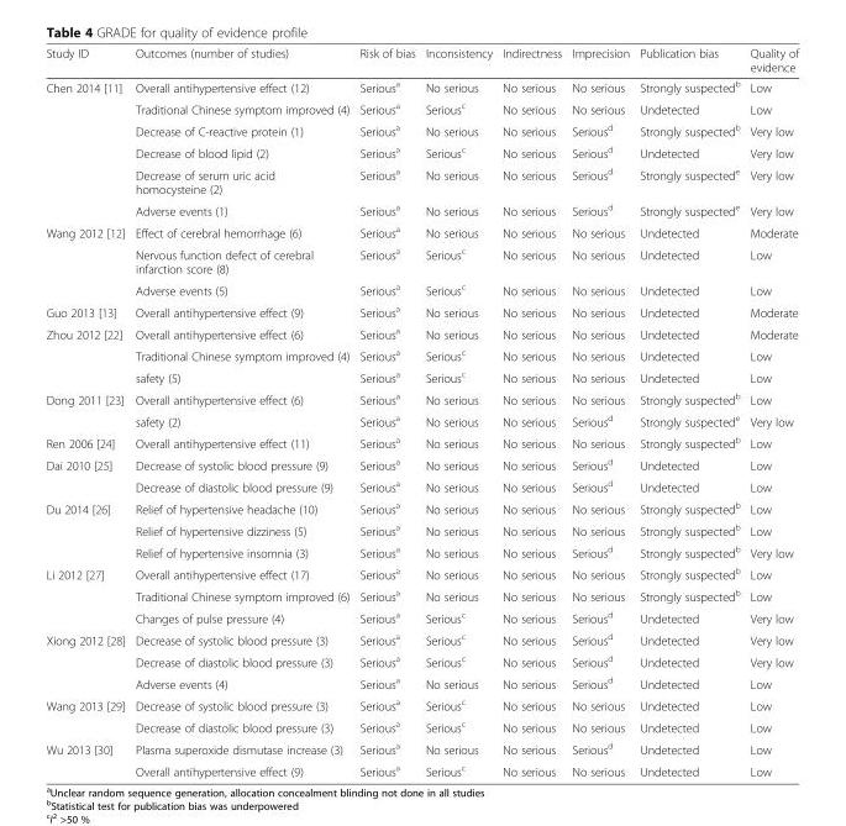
<table><thead><tr><td>Study ID</td><td>Outcomes (number of studies)</td><td>Risk of bias</td><td>Inconsistency</td><td>Indirectness</td><td>Imprecision</td><td>Publication bias</td><td>Quality of evidence</td></tr></thead><tbody><tr><td rowspan="6">Chen 2014 [11]</td><td>Overall antihypertensive effect (12)</td><td>Serious<sup>a</sup></td><td>No serious</td><td>No serious</td><td>No serious</td><td>Strongly suspected<sup>b</sup></td><td>Low</td></tr><tr><td>Traditional Chinese symptom improved (4)</td><td>Serious<sup>a</sup></td><td>Serious<sup>c</sup></td><td>No serious</td><td>No serious</td><td>Undetected</td><td>Low</td></tr><tr><td>Decrease of C-reactive protein (1)</td><td>Serious<sup>a</sup></td><td>No serious</td><td>No serious</td><td>Serious<sup>d</sup></td><td>Strongly suspected<sup>b</sup></td><td>Very low</td></tr><tr><td>Decrease of blood lipid (2)</td><td>Serious<sup>a</sup></td><td>Serious<sup>c</sup></td><td>No serious</td><td>Serious<sup>d</sup></td><td>Undetected</td><td>Very low</td></tr><tr><td>Decrease of serum uric acid homocysteine (2)</td><td>Serious<sup>a</sup></td><td>No serious</td><td>No serious</td><td>Serious<sup>d</sup></td><td>Strongly suspected<sup>e</sup></td><td>Very low</td></tr><tr><td>Adverse events (1)</td><td>Serious<sup>a</sup></td><td>No serious</td><td>No serious</td><td>Serious<sup>d</sup></td><td>Strongly suspected<sup>e</sup></td><td>Very low</td></tr><tr><td rowspan="3">Wang 2012 [12]</td><td>Effect of cerebral hemorrhage (6)</td><td>Serious<sup>a</sup></td><td>No serious</td><td>No serious</td><td>No serious</td><td>Undetected</td><td>Moderate</td></tr><tr><td>Nervous function defect of cerebral infarction score (8)</td><td>Serious<sup>a</sup></td><td>Serious<sup>c</sup></td><td>No serious</td><td>No serious</td><td>Undetected</td><td>Low</td></tr><tr><td>Adverse events (5)</td><td>Serious<sup>a</sup></td><td>Serious<sup>c</sup></td><td>No serious</td><td>No serious</td><td>Undetected</td><td>Low</td></tr><tr><td>Guo 2013 [13]</td><td>Overall antihypertensive effect (9)</td><td>Serious<sup>a</sup></td><td>No serious</td><td>No serious</td><td>No serious</td><td>Undetected</td><td>Moderate</td></tr><tr><td rowspan="3">Zhou 2012 [22]</td><td>Overall antihypertensive effect (6)</td><td>Serious<sup>a</sup></td><td>No serious</td><td>No serious</td><td>No serious</td><td>Undetected</td><td>Moderate</td></tr><tr><td>Traditional Chinese symptom improved (4)</td><td>Serious<sup>a</sup></td><td>Serious<sup>c</sup></td><td>No serious</td><td>No serious</td><td>Undetected</td><td>Low</td></tr><tr><td>safety (5)</td><td>Serious<sup>a</sup></td><td>Serious<sup>c</sup></td><td>No serious</td><td>No serious</td><td>Undetected</td><td>Low</td></tr><tr><td rowspan="2">Dong 2011 [23]</td><td>Overall antihypertensive effect (6)</td><td>Serious<sup>a</sup></td><td>No serious</td><td>No serious</td><td>No serious</td><td>Strongly suspected<sup>b</sup></td><td>Low</td></tr><tr><td>safety (2)</td><td>Serious<sup>a</sup></td><td>No serious</td><td>No serious</td><td>Serious<sup>d</sup></td><td>Strongly suspected<sup>e</sup></td><td>Very low</td></tr><tr><td>Ren 2006 [24]</td><td>Overall antihypertensive effect (11)</td><td>Serious<sup>a</sup></td><td>No serious</td><td>No serious</td><td>No serious</td><td>Strongly suspected<sup>b</sup></td><td>Low</td></tr><tr><td rowspan="2">Dai 2010 [25]</td><td>Decrease of systolic blood pressure (9)</td><td>Serious<sup>a</sup></td><td>No serious</td><td>No serious</td><td>Serious<sup>d</sup></td><td>Undetected</td><td>Low</td></tr><tr><td>Decrease of diastolic blood pressure (9)</td><td>Serious<sup>a</sup></td><td>No serious</td><td>No serious</td><td>Serious<sup>d</sup></td><td>Undetected</td><td>Low</td></tr><tr><td rowspan="3">Du 2014 [26]</td><td>Relief of hypertensive headache (10)</td><td>Serious<sup>a</sup></td><td>No serious</td><td>No serious</td><td>No serious</td><td>Strongly suspected<sup>b</sup></td><td>Low</td></tr><tr><td>Relief of hypertensive dizziness (5)</td><td>Serious<sup>a</sup></td><td>No serious</td><td>No serious</td><td>No serious</td><td>Strongly suspected<sup>b</sup></td><td>Low</td></tr><tr><td>Relief of hypertensive insomnia (3)</td><td>Serious<sup>a</sup></td><td>No serious</td><td>No serious</td><td>Serious<sup>d</sup></td><td>Strongly suspected<sup>b</sup></td><td>Very low</td></tr><tr><td rowspan="3">Li 2012 [27]</td><td>Overall antihypertensive effect (17)</td><td>Serious<sup>a</sup></td><td>No serious</td><td>No serious</td><td>No serious</td><td>Strongly suspected<sup>b</sup></td><td>Low</td></tr><tr><td>Traditional Chinese symptom improved (6)</td><td>Serious<sup>a</sup></td><td>No serious</td><td>No serious</td><td>No serious</td><td>Strongly suspected<sup>b</sup></td><td>Low</td></tr><tr><td>Changes of pulse pressure (4)</td><td>Serious<sup>a</sup></td><td>Serious<sup>c</sup></td><td>No serious</td><td>Serious<sup>d</sup></td><td>Undetected</td><td>Very low</td></tr><tr><td rowspan="3">Xiong 2012 [28]</td><td>Decrease of systolic blood pressure (3)</td><td>Serious<sup>a</sup></td><td>Serious<sup>c</sup></td><td>No serious</td><td>Serious<sup>d</sup></td><td>Undetected</td><td>Very low</td></tr><tr><td>Decrease of diastolic blood pressure (3)</td><td>Serious<sup>a</sup></td><td>Serious<sup>c</sup></td><td>No serious</td><td>Serious<sup>d</sup></td><td>Undetected</td><td>Very low</td></tr><tr><td>Adverse events (4)</td><td>Serious<sup>a</sup></td><td>No serious</td><td>No serious</td><td>Serious<sup>d</sup></td><td>Undetected</td><td>Low</td></tr><tr><td rowspan="2">Wang 2013 [29]</td><td>Decrease of systolic blood pressure (3)</td><td>Serious<sup>a</sup></td><td>Serious<sup>c</sup></td><td>No serious</td><td>No serious</td><td>Undetected</td><td>Low</td></tr><tr><td>Decrease of diastolic blood pressure (3)</td><td>Serious<sup>a</sup></td><td>Serious<sup>c</sup></td><td>No serious</td><td>No serious</td><td>Undetected</td><td>Low</td></tr><tr><td rowspan="2">Wu 2013 [30]</td><td>Plasma superoxide dismutase increase (3)</td><td>Serious<sup>a</sup></td><td>No serious</td><td>No serious</td><td>Serious<sup>d</sup></td><td>Undetected</td><td>Low</td></tr><tr><td>Overall antihypertensive effect (9)</td><td>Serious<sup>a</sup></td><td>Serious<sup>c</sup></td><td>No serious</td><td>No serious</td><td>Undetected</td><td>Low</td></tr></tbody></table>